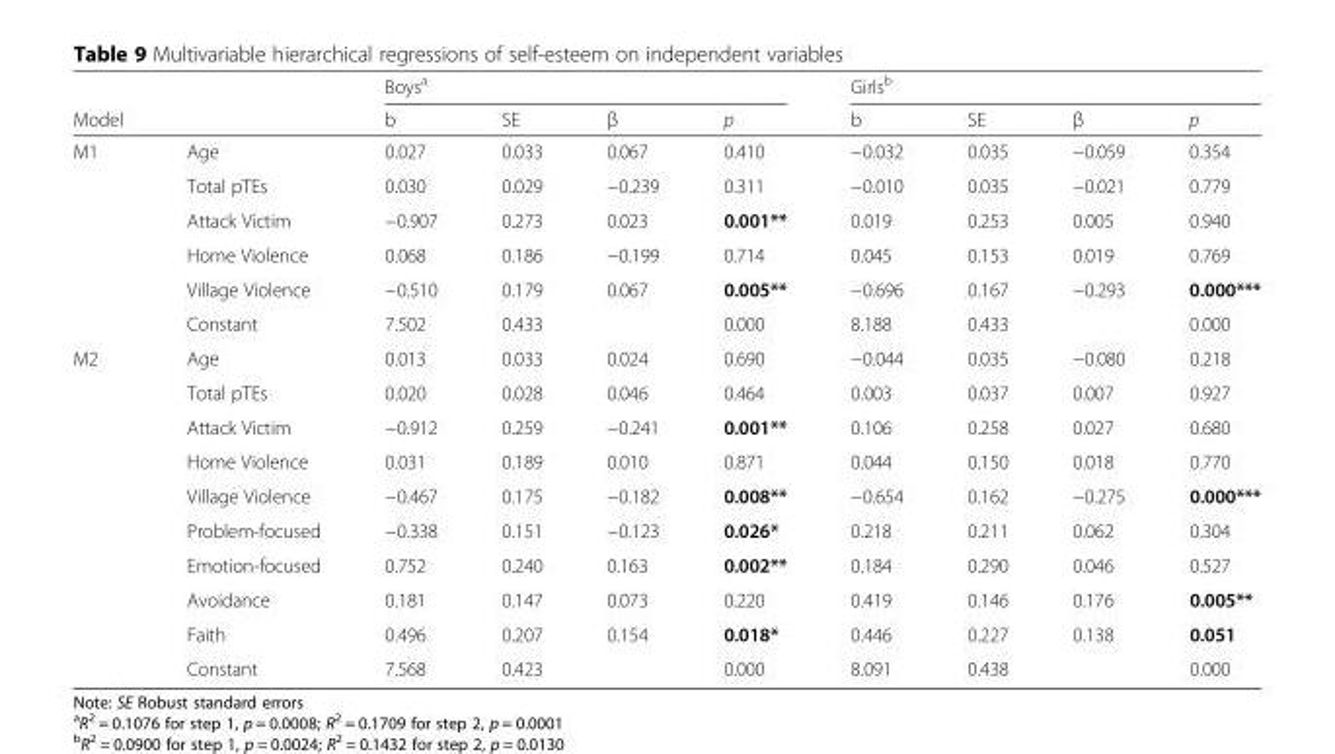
<table><thead><tr><td rowspan="2">Model</td><td rowspan="2"></td><td rowspan="2">Boys<sup>a</sup> b</td><td rowspan="2">SE</td><td rowspan="2">β</td><td rowspan="2">p</td><td rowspan="2">Girls<sup>b</sup> b</td><td rowspan="2">SE</td><td rowspan="2">β</td><td rowspan="2">p</td></tr><tr></tr></thead><tbody><tr><td rowspan="6">M1</td><td>Age</td><td>0.027</td><td>0.033</td><td>0.067</td><td>0.410</td><td>−0.032</td><td>0.035</td><td>−0.059</td><td>0.354</td></tr><tr><td>Total pTEs</td><td>0.030</td><td>0.029</td><td>−0.239</td><td>0.311</td><td>−0.010</td><td>0.035</td><td>−0.021</td><td>0.779</td></tr><tr><td>Attack Victim</td><td>−0.907</td><td>0.273</td><td>0.023</td><td>0.001**</td><td>0.019</td><td>0.253</td><td>0.005</td><td>0.940</td></tr><tr><td>Home Violence</td><td>0.068</td><td>0.186</td><td>−0.199</td><td>0.714</td><td>0.045</td><td>0.153</td><td>0.019</td><td>0.769</td></tr><tr><td>Village Violence</td><td>−0.510</td><td>0.179</td><td>0.067</td><td>0.005**</td><td>−0.696</td><td>0.167</td><td>−0.293</td><td>0.000***</td></tr><tr><td>Constant</td><td>7.502</td><td>0.433</td><td></td><td>0.000</td><td>8.188</td><td>0.433</td><td></td><td>0.000</td></tr><tr><td rowspan="10">M2</td><td>Age</td><td>0.013</td><td>0.033</td><td>0.024</td><td>0.690</td><td>−0.044</td><td>0.035</td><td>−0.080</td><td>0.218</td></tr><tr><td>Total pTEs</td><td>0.020</td><td>0.028</td><td>0.046</td><td>0.464</td><td>0.003</td><td>0.037</td><td>0.007</td><td>0.927</td></tr><tr><td>Attack Victim</td><td>−0.912</td><td>0.259</td><td>−0.241</td><td>0.001**</td><td>0.106</td><td>0.258</td><td>0.027</td><td>0.680</td></tr><tr><td>Home Violence</td><td>0.031</td><td>0.189</td><td>0.010</td><td>0.871</td><td>0.044</td><td>0.150</td><td>0.018</td><td>0.770</td></tr><tr><td>Village Violence</td><td>−0.467</td><td>0.175</td><td>−0.182</td><td>0.008**</td><td>−0.654</td><td>0.162</td><td>−0.275</td><td>0.000***</td></tr><tr><td>Problem-focused</td><td>−0.338</td><td>0.151</td><td>−0.123</td><td>0.026*</td><td>0.218</td><td>0.211</td><td>0.062</td><td>0.304</td></tr><tr><td>Emotion-focused</td><td>0.752</td><td>0.240</td><td>0.163</td><td>0.002**</td><td>0.184</td><td>0.290</td><td>0.046</td><td>0.527</td></tr><tr><td>Avoidance</td><td>0.181</td><td>0.147</td><td>0.073</td><td>0.220</td><td>0.419</td><td>0.146</td><td>0.176</td><td>0.005**</td></tr><tr><td>Faith</td><td>0.496</td><td>0.207</td><td>0.154</td><td>0.018*</td><td>0.446</td><td>0.227</td><td>0.138</td><td>0.051</td></tr><tr><td>Constant</td><td>7.568</td><td>0.423</td><td></td><td>0.000</td><td>8.091</td><td>0.438</td><td></td><td>0.000</td></tr></tbody></table>